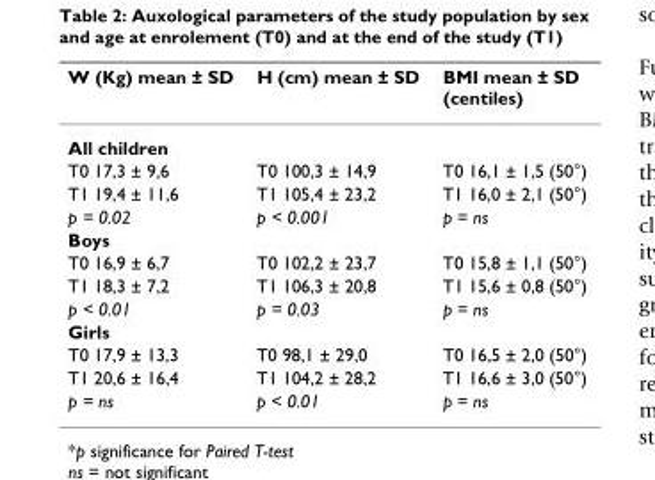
<table><thead><tr><td>W (Kg) mean ± SD</td><td>H (cm) mean ± SD</td><td>BMI mean ± SD (centiles)</td></tr></thead><tbody><tr><td colspan="3">All children</td></tr><tr><td>T0 17,3 ± 9,6</td><td>T0 100,3 ± 14,9</td><td>T0 16,1 ± 1,5 (50°)</td></tr><tr><td>T1 19,4 ± 11,6</td><td>T1 105,4 ± 23,2</td><td>T1 16,0 ± 2,1 (50°)</td></tr><tr><td>p = 0.02</td><td>p &lt; 0.001</td><td>p = ns</td></tr><tr><td colspan="3">Boys</td></tr><tr><td>T0 16,9 ± 6,7</td><td>T0 102,2 ± 23,7</td><td>T0 15,8 ± 1,1 (50°)</td></tr><tr><td>T1 18,3 ± 7,2</td><td>T1 106,3 ± 20,8</td><td>T1 15,6 ± 0,8 (50°)</td></tr><tr><td>p &lt; 0.01</td><td>p = 0.03</td><td>p = ns</td></tr><tr><td colspan="3">Girls</td></tr><tr><td>T0 17,9 ± 13,3</td><td>T0 98,1 ± 29,0</td><td>T0 16,5 ± 2,0 (50°)</td></tr><tr><td>T1 20,6 ± 16,4</td><td>T1 104,2 ± 28,2</td><td>T1 16,6 ± 3,0 (50°)</td></tr><tr><td>p = ns</td><td>p &lt; 0.01</td><td>p = ns</td></tr></tbody></table>